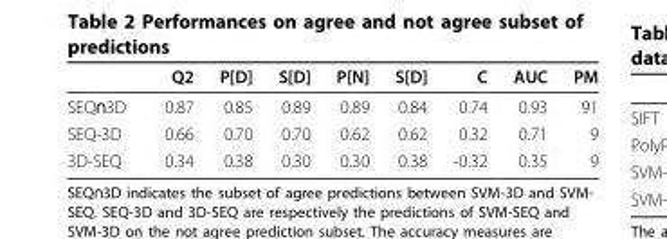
<table><thead><tr><td></td><td>Q2</td><td>P[D]</td><td>S[D]</td><td>P[N]</td><td>S[D]</td><td>C</td><td>AUC</td><td>PM</td></tr></thead><tbody><tr><td>SEQ∩3D</td><td>0.87</td><td>0.85</td><td>0.89</td><td>0.89</td><td>0.84</td><td>0.74</td><td>0.93</td><td>91</td></tr><tr><td>SEQ-3D</td><td>0.66</td><td>0.70</td><td>0.70</td><td>0.62</td><td>0.62</td><td>0.32</td><td>0.71</td><td>9</td></tr><tr><td>3D-SEQ</td><td>0.34</td><td>0.38</td><td>0.30</td><td>0.30</td><td>0.38</td><td>-0.32</td><td>0.35</td><td>9</td></tr></tbody></table>